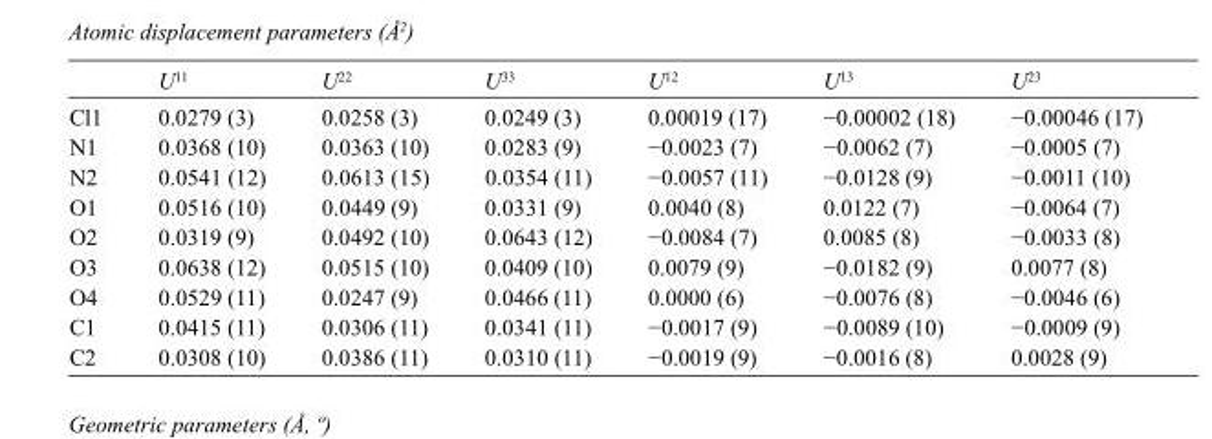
<table><thead><tr><td></td><td>U<sup>11</sup></td><td>U<sup>22</sup></td><td>U<sup>33</sup></td><td>U<sup>12</sup></td><td>U<sup>13</sup></td><td>U<sup>23</sup></td></tr></thead><tbody><tr><td>Cl1</td><td>0.0279 (3)</td><td>0.0258 (3)</td><td>0.0249 (3)</td><td>0.00019 (17)</td><td>−0.00002 (18)</td><td>−0.00046 (17)</td></tr><tr><td>N1</td><td>0.0368 (10)</td><td>0.0363 (10)</td><td>0.0283 (9)</td><td>−0.0023 (7)</td><td>−0.0062 (7)</td><td>−0.0005 (7)</td></tr><tr><td>N2</td><td>0.0541 (12)</td><td>0.0613 (15)</td><td>0.0354 (11)</td><td>−0.0057 (11)</td><td>−0.0128 (9)</td><td>−0.0011 (10)</td></tr><tr><td>O1</td><td>0.0516 (10)</td><td>0.0449 (9)</td><td>0.0331 (9)</td><td>0.0040 (8)</td><td>0.0122 (7)</td><td>−0.0064 (7)</td></tr><tr><td>O2</td><td>0.0319 (9)</td><td>0.0492 (10)</td><td>0.0643 (12)</td><td>−0.0084 (7)</td><td>0.0085 (8)</td><td>−0.0033 (8)</td></tr><tr><td>O3</td><td>0.0638 (12)</td><td>0.0515 (10)</td><td>0.0409 (10)</td><td>0.0079 (9)</td><td>−0.0182 (9)</td><td>0.0077 (8)</td></tr><tr><td>O4</td><td>0.0529 (11)</td><td>0.0247 (9)</td><td>0.0466 (11)</td><td>0.0000 (6)</td><td>−0.0076 (8)</td><td>−0.0046 (6)</td></tr><tr><td>C1</td><td>0.0415 (11)</td><td>0.0306 (11)</td><td>0.0341 (11)</td><td>−0.0017 (9)</td><td>−0.0089 (10)</td><td>−0.0009 (9)</td></tr><tr><td>C2</td><td>0.0308 (10)</td><td>0.0386 (11)</td><td>0.0310 (11)</td><td>−0.0019 (9)</td><td>−0.0016 (8)</td><td>0.0028 (9)</td></tr></tbody></table>